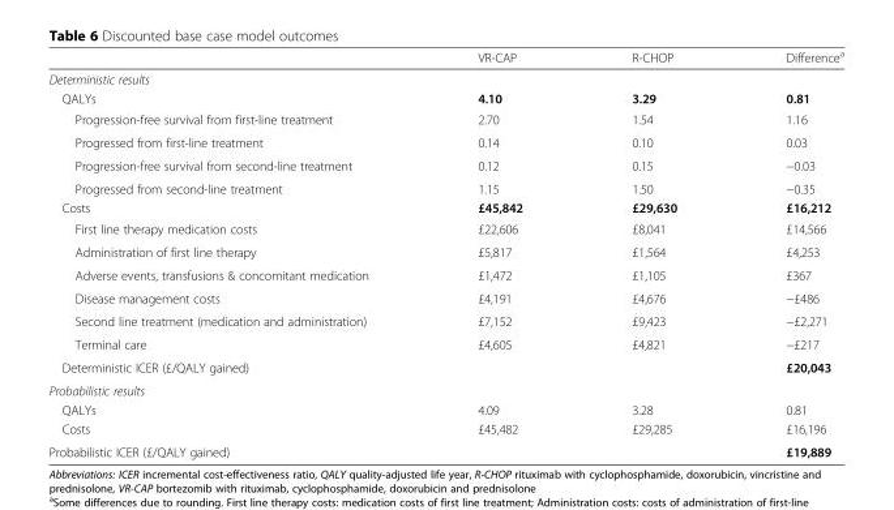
<table><thead><tr><td></td><td>VR-CAP</td><td>R-CHOP</td><td>Difference<sup>a</sup></td></tr></thead><tbody><tr><td colspan="4">Deterministic results</td></tr><tr><td>QALYs</td><td>4.10</td><td>3.29</td><td>0.81</td></tr><tr><td>Progression-free survival from first-line treatment</td><td>2.70</td><td>1.54</td><td>1.16</td></tr><tr><td>Progressed from first-line treatment</td><td>0.14</td><td>0.10</td><td>0.03</td></tr><tr><td>Progression-free survival from second-line treatment</td><td>0.12</td><td>0.15</td><td>−0.03</td></tr><tr><td>Progressed from second-line treatment</td><td>1.15</td><td>1.50</td><td>−0.35</td></tr><tr><td>Costs</td><td>£45,842</td><td>£29,630</td><td>£16,212</td></tr><tr><td>First line therapy medication costs</td><td>£22,606</td><td>£8,041</td><td>£14,566</td></tr><tr><td>Administration of first line therapy</td><td>£5,817</td><td>£1,564</td><td>£4,253</td></tr><tr><td>Adverse events, transfusions &amp; concomitant medication</td><td>£1,472</td><td>£1,105</td><td>£367</td></tr><tr><td>Disease management costs</td><td>£4,191</td><td>£4,676</td><td>−£486</td></tr><tr><td>Second line treatment (medication and administration)</td><td>£7,152</td><td>£9,423</td><td>−£2,271</td></tr><tr><td>Terminal care</td><td>£4,605</td><td>£4,821</td><td>−£217</td></tr><tr><td>Deterministic ICER (£/QALY gained)</td><td></td><td></td><td>£20,043</td></tr><tr><td colspan="4">Probabilistic results</td></tr><tr><td>QALYs</td><td>4.09</td><td>3.28</td><td>0.81</td></tr><tr><td>Costs</td><td>£45,482</td><td>£29,285</td><td>£16,196</td></tr><tr><td>Probabilistic ICER (£/QALY gained)</td><td></td><td></td><td>£19,889</td></tr></tbody></table>